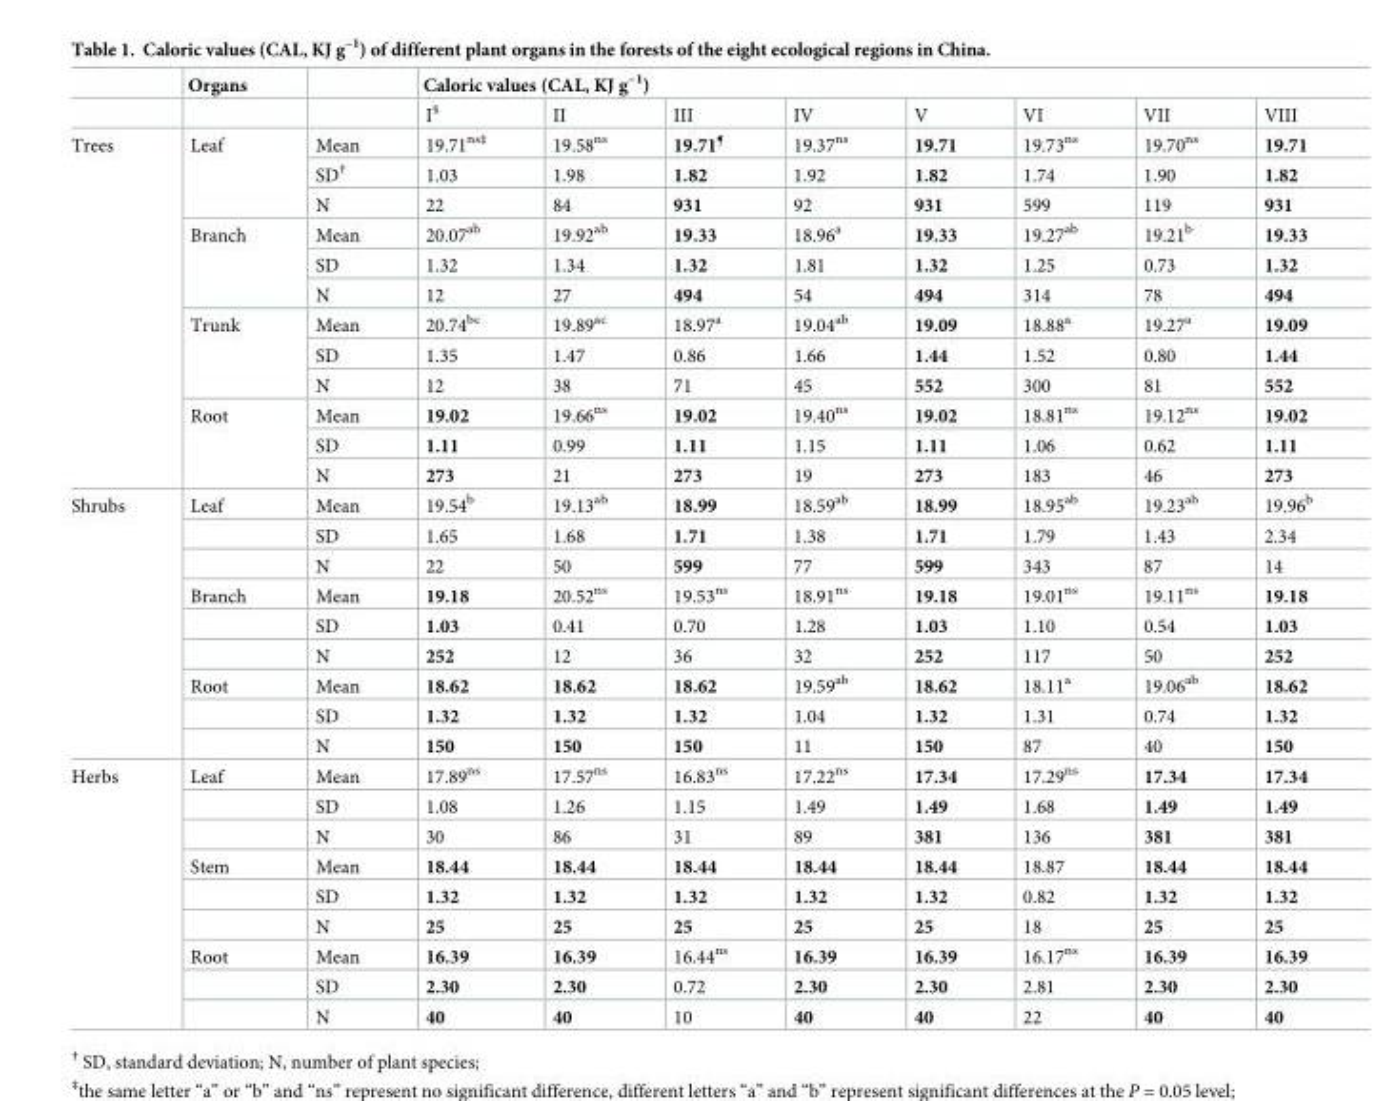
<table><thead><tr><td rowspan="2"></td><td rowspan="2">Organs</td><td rowspan="2"></td><td colspan="8">Caloric values (CAL, KJ g<sup>–1</sup>)</td></tr><tr><td>I<sup>§</sup></td><td>II</td><td>III</td><td>IV</td><td>V</td><td>VI</td><td>VII</td><td>VIII</td></tr></thead><tbody><tr><td rowspan="12">Trees</td><td rowspan="3">Leaf</td><td>Mean</td><td>19.71<sup>ns‡</sup></td><td>19.58<sup>ns</sup></td><td>19.71<sup>¶</sup></td><td>19.37<sup>ns</sup></td><td>19.71</td><td>19.73<sup>ns</sup></td><td>19.70<sup>ns</sup></td><td>19.71</td></tr><tr><td>SD<sup>†</sup></td><td>1.03</td><td>1.98</td><td>1.82</td><td>1.92</td><td>1.82</td><td>1.74</td><td>1.90</td><td>1.82</td></tr><tr><td>N</td><td>22</td><td>84</td><td>931</td><td>92</td><td>931</td><td>599</td><td>119</td><td>931</td></tr><tr><td rowspan="3">Branch</td><td>Mean</td><td>20.07<sup>ab</sup></td><td>19.92<sup>ab</sup></td><td>19.33</td><td>18.96<sup>a</sup></td><td>19.33</td><td>19.27<sup>ab</sup></td><td>19.21<sup>b</sup></td><td>19.33</td></tr><tr><td>SD</td><td>1.32</td><td>1.34</td><td>1.32</td><td>1.81</td><td>1.32</td><td>1.25</td><td>0.73</td><td>1.32</td></tr><tr><td>N</td><td>12</td><td>27</td><td>494</td><td>54</td><td>494</td><td>314</td><td>78</td><td>494</td></tr><tr><td rowspan="3">Trunk</td><td>Mean</td><td>20.74<sup>bc</sup></td><td>19.89<sup>ac</sup></td><td>18.97<sup>a</sup></td><td>19.04<sup>ab</sup></td><td>19.09</td><td>18.88<sup>a</sup></td><td>19.27<sup>a</sup></td><td>19.09</td></tr><tr><td>SD</td><td>1.35</td><td>1.47</td><td>0.86</td><td>1.66</td><td>1.44</td><td>1.52</td><td>0.80</td><td>1.44</td></tr><tr><td>N</td><td>12</td><td>38</td><td>71</td><td>45</td><td>552</td><td>300</td><td>81</td><td>552</td></tr><tr><td rowspan="3">Root</td><td>Mean</td><td>19.02</td><td>19.66<sup>ns</sup></td><td>19.02</td><td>19.40<sup>ns</sup></td><td>19.02</td><td>18.81<sup>ns</sup></td><td>19.12<sup>ns</sup></td><td>19.02</td></tr><tr><td>SD</td><td>1.11</td><td>0.99</td><td>1.11</td><td>1.15</td><td>1.11</td><td>1.06</td><td>0.62</td><td>1.11</td></tr><tr><td>N</td><td>273</td><td>21</td><td>273</td><td>19</td><td>273</td><td>183</td><td>46</td><td>273</td></tr><tr><td rowspan="9">Shrubs</td><td>Leaf</td><td>Mean</td><td>19.54<sup>b</sup></td><td>19.13<sup>ab</sup></td><td>18.99</td><td>18.59<sup>ab</sup></td><td>18.99</td><td>18.95<sup>ab</sup></td><td>19.23<sup>ab</sup></td><td>19.96<sup>b</sup></td></tr><tr><td></td><td>SD</td><td>1.65</td><td>1.68</td><td>1.71</td><td>1.38</td><td>1.71</td><td>1.79</td><td>1.43</td><td>2.34</td></tr><tr><td></td><td>N</td><td>22</td><td>50</td><td>599</td><td>77</td><td>599</td><td>343</td><td>87</td><td>14</td></tr><tr><td>Branch</td><td>Mean</td><td>19.18</td><td>20.52<sup>ns</sup></td><td>19.53<sup>ns</sup></td><td>18.91<sup>ns</sup></td><td>19.18</td><td>19.01<sup>ns</sup></td><td>19.11<sup>ns</sup></td><td>19.18</td></tr><tr><td></td><td>SD</td><td>1.03</td><td>0.41</td><td>0.70</td><td>1.28</td><td>1.03</td><td>1.10</td><td>0.54</td><td>1.03</td></tr><tr><td></td><td>N</td><td>252</td><td>12</td><td>36</td><td>32</td><td>252</td><td>117</td><td>50</td><td>252</td></tr><tr><td>Root</td><td>Mean</td><td>18.62</td><td>18.62</td><td>18.62</td><td>19.59<sup>ab</sup></td><td>18.62</td><td>18.11<sup>a</sup></td><td>19.06<sup>ab</sup></td><td>18.62</td></tr><tr><td></td><td>SD</td><td>1.32</td><td>1.32</td><td>1.32</td><td>1.04</td><td>1.32</td><td>1.31</td><td>0.74</td><td>1.32</td></tr><tr><td></td><td>N</td><td>150</td><td>150</td><td>150</td><td>11</td><td>150</td><td>87</td><td>40</td><td>150</td></tr><tr><td rowspan="9">Herbs</td><td>Leaf</td><td>Mean</td><td>17.89<sup>ns</sup></td><td>17.57<sup>ns</sup></td><td>16.83<sup>ns</sup></td><td>17.22<sup>ns</sup></td><td>17.34</td><td>17.29<sup>ns</sup></td><td>17.34</td><td>17.34</td></tr><tr><td></td><td>SD</td><td>1.08</td><td>1.26</td><td>1.15</td><td>1.49</td><td>1.49</td><td>1.68</td><td>1.49</td><td>1.49</td></tr><tr><td></td><td>N</td><td>30</td><td>86</td><td>31</td><td>89</td><td>381</td><td>136</td><td>381</td><td>381</td></tr><tr><td>Stem</td><td>Mean</td><td>18.44</td><td>18.44</td><td>18.44</td><td>18.44</td><td>18.44</td><td>18.87</td><td>18.44</td><td>18.44</td></tr><tr><td></td><td>SD</td><td>1.32</td><td>1.32</td><td>1.32</td><td>1.32</td><td>1.32</td><td>0.82</td><td>1.32</td><td>1.32</td></tr><tr><td></td><td>N</td><td>25</td><td>25</td><td>25</td><td>25</td><td>25</td><td>18</td><td>25</td><td>25</td></tr><tr><td>Root</td><td>Mean</td><td>16.39</td><td>16.39</td><td>16.44<sup>ns</sup></td><td>16.39</td><td>16.39</td><td>16.17<sup>ns</sup></td><td>16.39</td><td>16.39</td></tr><tr><td></td><td>SD</td><td>2.30</td><td>2.30</td><td>0.72</td><td>2.30</td><td>2.30</td><td>2.81</td><td>2.30</td><td>2.30</td></tr><tr><td></td><td>N</td><td>40</td><td>40</td><td>10</td><td>40</td><td>40</td><td>22</td><td>40</td><td>40</td></tr></tbody></table>